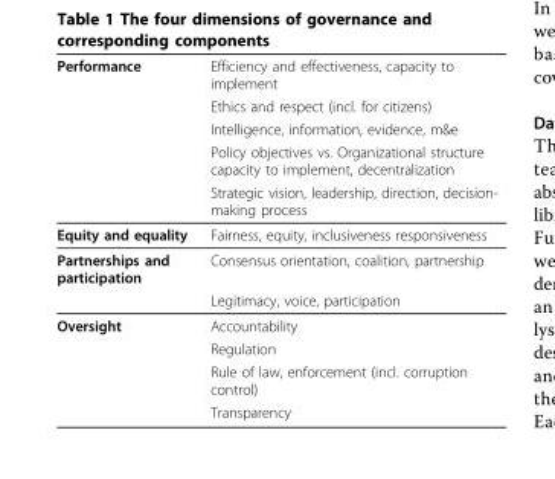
<table><thead><tr><td rowspan="5">Performance</td><td rowspan="5">Efficiency and effectiveness, capacity to implement Ethics and respect (incl. for citizens) Intelligence, information, evidence, m&amp;e Policy objectives vs. Organizational structure capacity to implement, decentralization Strategic vision, leadership, direction, decision- making process</td></tr><tr></tr><tr></tr><tr></tr><tr></tr></thead><tbody><tr><td>Equity and equality</td><td>Fairness, equity, inclusiveness responsiveness</td></tr><tr><td rowspan="2">Partnerships and participation</td><td>Consensus orientation, coalition, partnership</td></tr><tr><td>Legitimacy, voice, participation</td></tr><tr><td rowspan="4">Oversight</td><td>Accountability</td></tr><tr><td>Regulation</td></tr><tr><td>Rule of law, enforcement (incl. corruption control)</td></tr><tr><td>Transparency</td></tr></tbody></table>